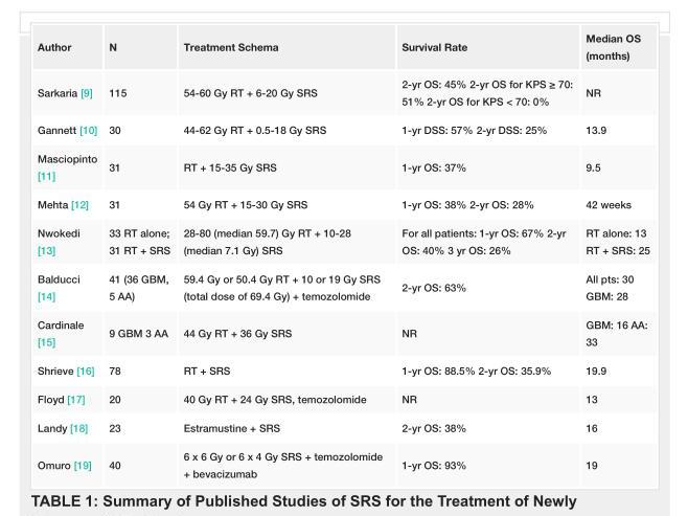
<table><tbody><tr><td>Author</td><td>N</td><td>Treatment Schema</td><td>Survival Rate</td><td>Median OS (months)</td></tr><tr><td>Sarkaria [9]</td><td>115</td><td>54-60 Gy RT + 6-20 Gy SRS</td><td>2-yr OS: 45% 2-yr OS for KPS ≥ 70: 51% 2-yr OS for KPS &lt; 70: 0%</td><td>NR</td></tr><tr><td>Gannett [10]</td><td>30</td><td>44-62 Gy RT + 0.5-18 Gy SRS</td><td>1-yr DSS: 57% 2-yr DSS: 25%</td><td>13.9</td></tr><tr><td>Masciopinto [11]</td><td>31</td><td>RT + 15-35 Gy SRS</td><td>1-yr OS: 37%</td><td>9.5</td></tr><tr><td>Mehta [12]</td><td>31</td><td>54 Gy RT + 15-30 Gy SRS</td><td>1-yr OS: 38% 2-yr OS: 28%</td><td>42 weeks</td></tr><tr><td>Nwokedi [13]</td><td>33 RT alone; 31 RT + SRS</td><td>28-80 (median 59.7) Gy RT + 10-28 (median 7.1 Gy) SRS</td><td>For all patients: 1-yr OS: 67% 2-yr OS: 40% 3 yr OS: 26%</td><td>RT alone: 13 RT + SRS: 25</td></tr><tr><td>Balducci [14]</td><td>41 (36 GBM, 5 AA)</td><td>59.4 Gy or 50.4 Gy RT + 10 or 19 Gy SRS (total dose of 69.4 Gy) + temozolomide</td><td>2-yr OS: 63%</td><td>All pts: 30 GBM: 28</td></tr><tr><td>Cardinale [15]</td><td>9 GBM 3 AA</td><td>44 Gy RT + 36 Gy SRS</td><td>NR</td><td>GBM: 16 AA: 33</td></tr><tr><td>Shrieve [16]</td><td>78</td><td>RT + SRS</td><td>1-yr OS: 88.5% 2-yr OS: 35.9%</td><td>19.9</td></tr><tr><td>Floyd [17]</td><td>20</td><td>40 Gy RT + 24 Gy SRS, temozolomide</td><td>NR</td><td>13</td></tr><tr><td>Landy [18]</td><td>23</td><td>Estramustine + SRS</td><td>2-yr OS: 38%</td><td>16</td></tr><tr><td>Omuro [19]</td><td>40</td><td>6 x 6 Gy or 6 x 4 Gy SRS + temozolomide + bevacizumab</td><td>1-yr OS: 93%</td><td>19</td></tr></tbody></table>